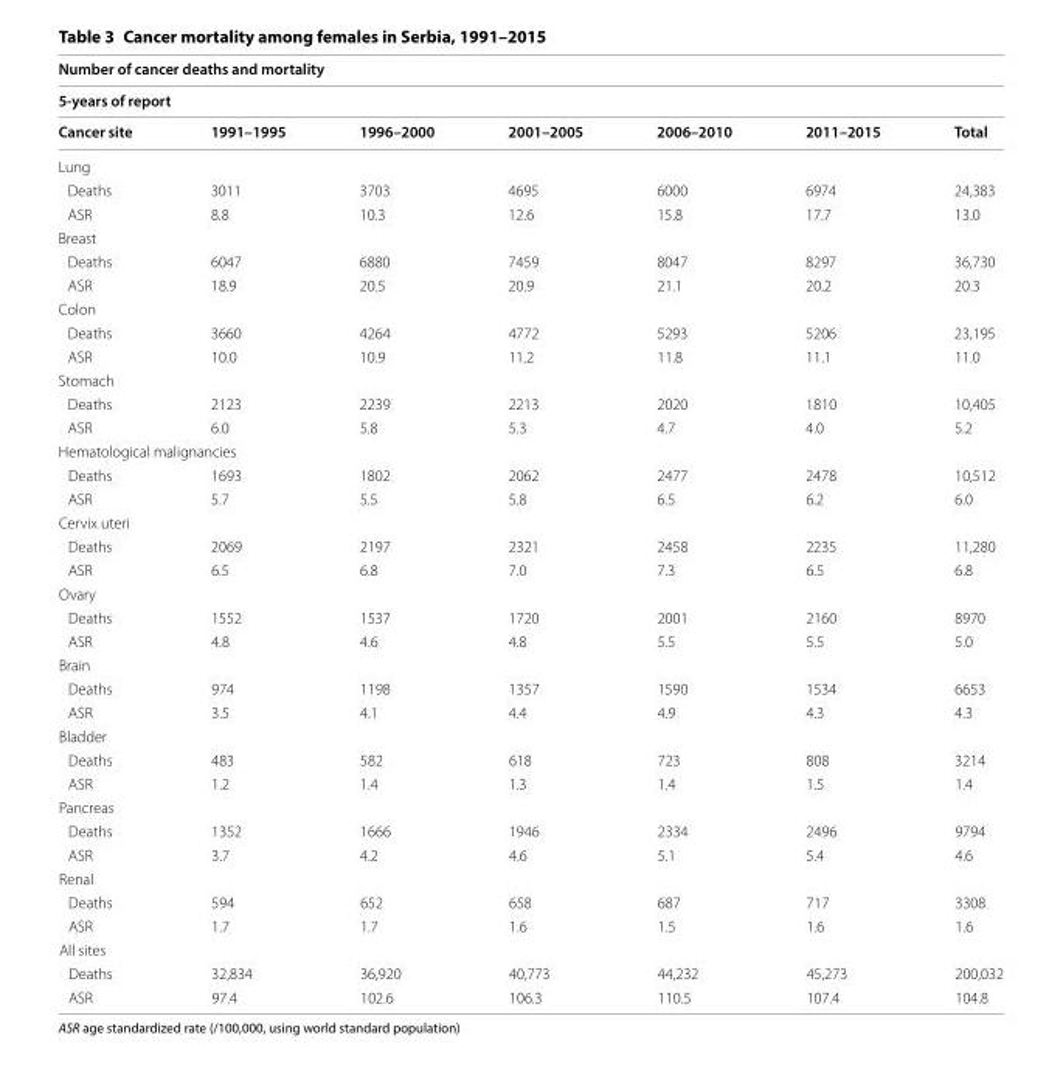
<table><thead><tr><td rowspan="2" colspan="7">Number of cancer deaths and mortality 5‑years of report</td></tr><tr></tr><tr><td>Cancer site</td><td>1991–1995</td><td>1996–2000</td><td>2001–2005</td><td>2006–2010</td><td>2011–2015</td><td>Total</td></tr></thead><tbody><tr><td colspan="7">Lung</td></tr><tr><td>Deaths</td><td>3011</td><td>3703</td><td>4695</td><td>6000</td><td>6974</td><td>24,383</td></tr><tr><td>ASR</td><td>8.8</td><td>10.3</td><td>12.6</td><td>15.8</td><td>17.7</td><td>13.0</td></tr><tr><td colspan="7">Breast</td></tr><tr><td>Deaths</td><td>6047</td><td>6880</td><td>7459</td><td>8047</td><td>8297</td><td>36,730</td></tr><tr><td>ASR</td><td>18.9</td><td>20.5</td><td>20.9</td><td>21.1</td><td>20.2</td><td>20.3</td></tr><tr><td colspan="7">Colon</td></tr><tr><td>Deaths</td><td>3660</td><td>4264</td><td>4772</td><td>5293</td><td>5206</td><td>23,195</td></tr><tr><td>ASR</td><td>10.0</td><td>10.9</td><td>11.2</td><td>11.8</td><td>11.1</td><td>11.0</td></tr><tr><td colspan="7">Stomach</td></tr><tr><td>Deaths</td><td>2123</td><td>2239</td><td>2213</td><td>2020</td><td>1810</td><td>10,405</td></tr><tr><td>ASR</td><td>6.0</td><td>5.8</td><td>5.3</td><td>4.7</td><td>4.0</td><td>5.2</td></tr><tr><td colspan="7">Hematological malignancies</td></tr><tr><td>Deaths</td><td>1693</td><td>1802</td><td>2062</td><td>2477</td><td>2478</td><td>10,512</td></tr><tr><td>ASR</td><td>5.7</td><td>5.5</td><td>5.8</td><td>6.5</td><td>6.2</td><td>6.0</td></tr><tr><td colspan="7">Cervix uteri</td></tr><tr><td>Deaths</td><td>2069</td><td>2197</td><td>2321</td><td>2458</td><td>2235</td><td>11,280</td></tr><tr><td>ASR</td><td>6.5</td><td>6.8</td><td>7.0</td><td>7.3</td><td>6.5</td><td>6.8</td></tr><tr><td colspan="7">Ovary</td></tr><tr><td>Deaths</td><td>1552</td><td>1537</td><td>1720</td><td>2001</td><td>2160</td><td>8970</td></tr><tr><td>ASR</td><td>4.8</td><td>4.6</td><td>4.8</td><td>5.5</td><td>5.5</td><td>5.0</td></tr><tr><td colspan="7">Brain</td></tr><tr><td>Deaths</td><td>974</td><td>1198</td><td>1357</td><td>1590</td><td>1534</td><td>6653</td></tr><tr><td>ASR</td><td>3.5</td><td>4.1</td><td>4.4</td><td>4.9</td><td>4.3</td><td>4.3</td></tr><tr><td colspan="7">Bladder</td></tr><tr><td>Deaths</td><td>483</td><td>582</td><td>618</td><td>723</td><td>808</td><td>3214</td></tr><tr><td>ASR</td><td>1.2</td><td>1.4</td><td>1.3</td><td>1.4</td><td>1.5</td><td>1.4</td></tr><tr><td colspan="7">Pancreas</td></tr><tr><td>Deaths</td><td>1352</td><td>1666</td><td>1946</td><td>2334</td><td>2496</td><td>9794</td></tr><tr><td>ASR</td><td>3.7</td><td>4.2</td><td>4.6</td><td>5.1</td><td>5.4</td><td>4.6</td></tr><tr><td colspan="7">Renal</td></tr><tr><td>Deaths</td><td>594</td><td>652</td><td>658</td><td>687</td><td>717</td><td>3308</td></tr><tr><td>ASR</td><td>1.7</td><td>1.7</td><td>1.6</td><td>1.5</td><td>1.6</td><td>1.6</td></tr><tr><td colspan="7">All sites</td></tr><tr><td>Deaths</td><td>32,834</td><td>36,920</td><td>40,773</td><td>44,232</td><td>45,273</td><td>200,032</td></tr><tr><td>ASR</td><td>97.4</td><td>102.6</td><td>106.3</td><td>110.5</td><td>107.4</td><td>104.8</td></tr></tbody></table>